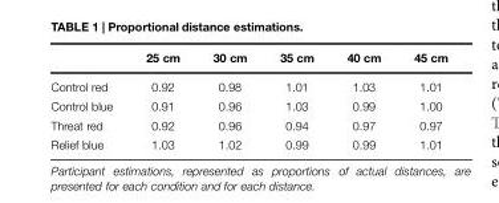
<table><thead><tr><td></td><td>25 cm</td><td>30 cm</td><td>35 cm</td><td>40 cm</td><td>45 cm</td></tr></thead><tbody><tr><td>Control red</td><td>0.92</td><td>0.98</td><td>1.01</td><td>1.03</td><td>1.01</td></tr><tr><td>Control blue</td><td>0.91</td><td>0.96</td><td>1.03</td><td>0.99</td><td>1.00</td></tr><tr><td>Threat red</td><td>0.92</td><td>0.96</td><td>0.94</td><td>0.97</td><td>0.97</td></tr><tr><td>Relief blue</td><td>1.03</td><td>1.02</td><td>0.99</td><td>0.99</td><td>1.01</td></tr></tbody></table>